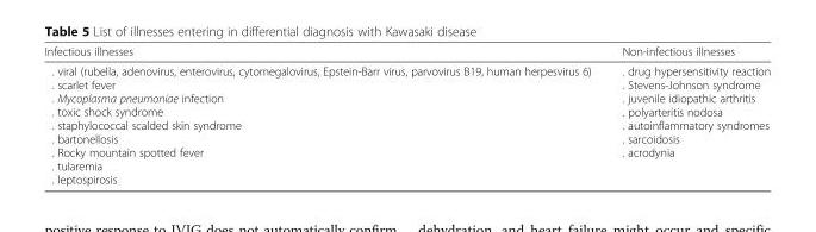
<table><thead><tr><td>Infectious illnesses</td><td>Non-infectious illnesses</td></tr></thead><tbody><tr><td>. viral (rubella, adenovirus, enterovirus, cytomegalovirus, Epstein-Barr virus, parvovirus B19, human herpesvirus 6) . scarlet fever . Mycoplasma pneumoniae infection . toxic shock syndrome . staphylococcal scalded skin syndrome . bartonellosis . Rocky mountain spotted fever . tularemia . leptospirosis</td><td>. drug hypersensitivity reaction . Stevens-Johnson syndrome . juvenile idiopathic arthritis . polyarteritis nodosa . autoinflammatory syndromes . sarcoidosis . acrodynia</td></tr></tbody></table>